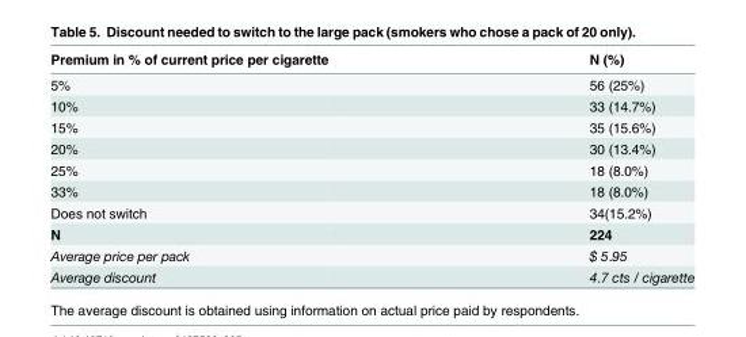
<table><thead><tr><td>Premium in % of current price per cigarette</td><td>N (%)</td></tr></thead><tbody><tr><td>5%</td><td>56 (25%)</td></tr><tr><td>10%</td><td>33 (14.7%)</td></tr><tr><td>15%</td><td>35 (15.6%)</td></tr><tr><td>20%</td><td>30 (13.4%)</td></tr><tr><td>25%</td><td>18 (8.0%)</td></tr><tr><td>33%</td><td>18 (8.0%)</td></tr><tr><td>Does not switch</td><td>34(15.2%)</td></tr><tr><td>N</td><td>224</td></tr><tr><td>Average price per pack</td><td>$ 5.95</td></tr><tr><td>Average discount</td><td>4.7 cts / cigarette</td></tr></tbody></table>